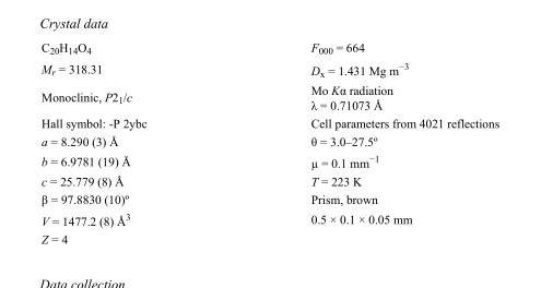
<table><tbody><tr><td>C<sub>20</sub>H<sub>14</sub>O<sub>4</sub></td><td>F000 = 664</td></tr><tr><td>M<sub>r</sub> = 318.31</td><td>D<sub>x</sub> = 1.431 Mg m<sup>−3</sup></td></tr><tr><td>Monoclinic, P2<sub>1</sub>/c</td><td>Mo Kα radiation λ = 0.71073 Å</td></tr><tr><td>Hall symbol: -P 2ybc</td><td>Cell parameters from 4021 reflections</td></tr><tr><td>a = 8.290 (3) Å</td><td>θ = 3.0–27.5º</td></tr><tr><td>b = 6.9781 (19) Å</td><td>µ = 0.1 mm<sup>−1</sup></td></tr><tr><td>c = 25.779 (8) Å</td><td>T = 223 K</td></tr><tr><td>β = 97.8830 (10)º</td><td>Prism, brown</td></tr><tr><td>V = 1477.2 (8) Å<sup>3</sup></td><td>0.5 × 0.1 × 0.05 mm</td></tr><tr><td>Z = 4</td><td></td></tr></tbody></table>